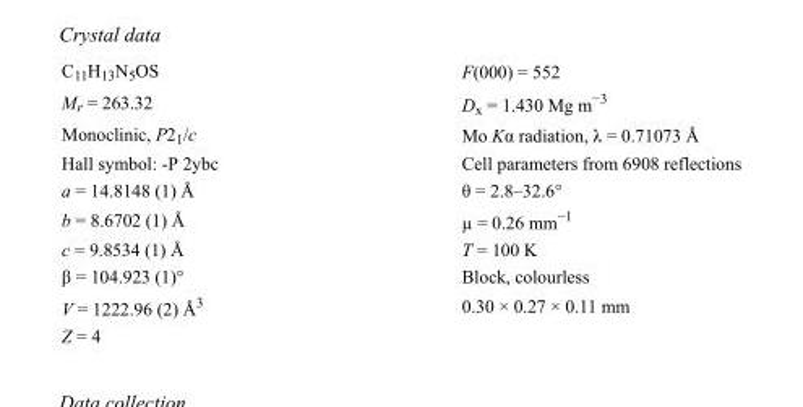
<table><tbody><tr><td>C<sub>11</sub>H<sub>13</sub>N<sub>5</sub>OS</td><td>F(000) = 552</td></tr><tr><td>M<sub>r</sub> = 263.32</td><td>D<sub>x</sub> = 1.430 Mg m<sup>−3</sup></td></tr><tr><td>Monoclinic, P2<sub>1</sub>/c</td><td>Mo Kα radiation, λ = 0.71073 Å</td></tr><tr><td>Hall symbol: -P 2ybc</td><td>Cell parameters from 6908 reflections</td></tr><tr><td>a = 14.8148 (1) Å</td><td>θ = 2.8–32.6°</td></tr><tr><td>b = 8.6702 (1) Å</td><td>µ = 0.26 mm<sup>−1</sup></td></tr><tr><td>c = 9.8534 (1) Å</td><td>T = 100 K</td></tr><tr><td>β = 104.923 (1)°</td><td>Block, colourless</td></tr><tr><td>V = 1222.96 (2) Å<sup>3</sup></td><td>0.30 × 0.27 × 0.11 mm</td></tr><tr><td>Z = 4</td><td></td></tr></tbody></table>